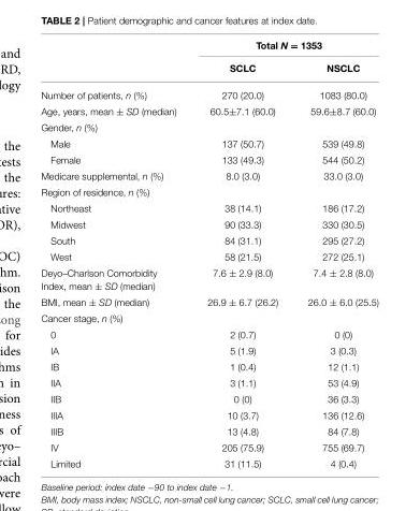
<table><thead><tr><td rowspan="2"></td><td colspan="2">Total N = 1353</td></tr><tr><td>SCLC</td><td>NSCLC</td></tr></thead><tbody><tr><td>Number of patients, n (%)</td><td>270 (20.0)</td><td>1083 (80.0)</td></tr><tr><td>Age, years, mean ± SD (median)</td><td>60.5±7.1 (60.0)</td><td>59.6±8.7 (60.0)</td></tr><tr><td colspan="3">Gender, n (%)</td></tr><tr><td>Male</td><td>137 (50.7)</td><td>539 (49.8)</td></tr><tr><td>Female</td><td>133 (49.3)</td><td>544 (50.2)</td></tr><tr><td>Medicare supplemental, n (%)</td><td>8.0 (3.0)</td><td>33.0 (3.0)</td></tr><tr><td colspan="3">Region of residence, n (%)</td></tr><tr><td>Northeast</td><td>38 (14.1)</td><td>186 (17.2)</td></tr><tr><td>Midwest</td><td>90 (33.3)</td><td>330 (30.5)</td></tr><tr><td>South</td><td>84 (31.1)</td><td>295 (27.2)</td></tr><tr><td>West</td><td>58 (21.5)</td><td>272 (25.1)</td></tr><tr><td>Deyo–Charlson Comorbidity Index, mean ± SD (median)</td><td>7.6 ± 2.9 (8.0)</td><td>7.4 ± 2.8 (8.0)</td></tr><tr><td>BMI, mean ± SD (median)</td><td>26.9 ± 6.7 (26.2)</td><td>26.0 ± 6.0 (25.5)</td></tr><tr><td colspan="3">Cancer stage, n (%)</td></tr><tr><td>0</td><td>2 (0.7)</td><td>0 (0)</td></tr><tr><td>IA</td><td>5 (1.9)</td><td>3 (0.3)</td></tr><tr><td>IB</td><td>1 (0.4)</td><td>12 (1.1)</td></tr><tr><td>IIA</td><td>3 (1.1)</td><td>53 (4.9)</td></tr><tr><td>IIB</td><td>0 (0)</td><td>36 (3.3)</td></tr><tr><td>IIIA</td><td>10 (3.7)</td><td>136 (12.6)</td></tr><tr><td>IIIB</td><td>13 (4.8)</td><td>84 (7.8)</td></tr><tr><td>IV</td><td>205 (75.9)</td><td>755 (69.7)</td></tr><tr><td>Limited</td><td>31 (11.5)</td><td>4 (0.4)</td></tr></tbody></table>